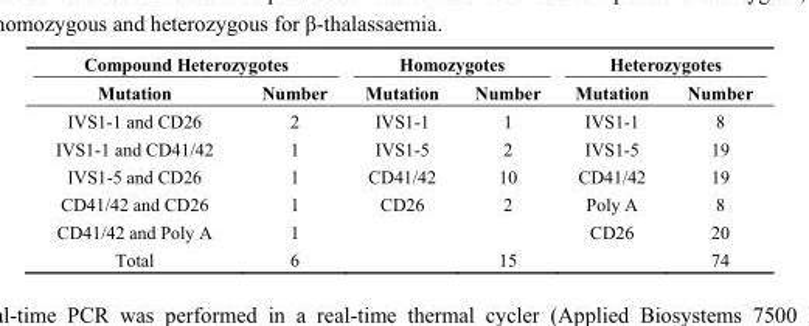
<table><thead><tr><td colspan="2">Compound Heterozygotes</td><td colspan="2">Homozygotes</td><td colspan="2">Heterozygotes</td></tr><tr><td>Mutation</td><td>Number</td><td>Mutation</td><td>Number</td><td>Mutation</td><td>Number</td></tr></thead><tbody><tr><td>IVS1-1 and CD26</td><td>2</td><td>IVS1-1</td><td>1</td><td>IVS1-1</td><td>8</td></tr><tr><td>IVS1-1 and CD41/42</td><td>1</td><td>IVS1-5</td><td>2</td><td>IVS1-5</td><td>19</td></tr><tr><td>IVS1-5 and CD26</td><td>1</td><td>CD41/42</td><td>10</td><td>CD41/42</td><td>19</td></tr><tr><td>CD41/42 and CD26</td><td>1</td><td>CD26</td><td>2</td><td>Poly A</td><td>8</td></tr><tr><td>CD41/42 and Poly A</td><td>1</td><td></td><td></td><td>CD26</td><td>20</td></tr><tr><td>Total</td><td>6</td><td></td><td>15</td><td></td><td>74</td></tr></tbody></table>